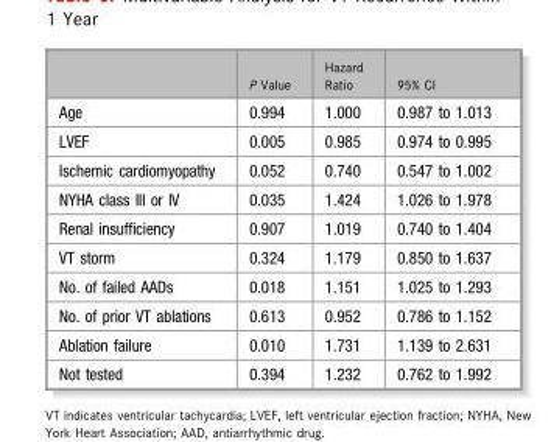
<table><thead><tr><td></td><td>P Value</td><td>Hazard Ratio</td><td>95% CI</td></tr></thead><tbody><tr><td>Age</td><td>0.994</td><td>1.000</td><td>0.987 to 1.013</td></tr><tr><td>LVEF</td><td>0.005</td><td>0.985</td><td>0.974 to 0.995</td></tr><tr><td>Ischemic cardiomyopathy</td><td>0.052</td><td>0.740</td><td>0.547 to 1.002</td></tr><tr><td>NYHA class III or IV</td><td>0.035</td><td>1.424</td><td>1.026 to 1.978</td></tr><tr><td>Renal insufficiency</td><td>0.907</td><td>1.019</td><td>0.740 to 1.404</td></tr><tr><td>VT storm</td><td>0.324</td><td>1.179</td><td>0.850 to 1.637</td></tr><tr><td>No. of failed AADs</td><td>0.018</td><td>1.151</td><td>1.025 to 1.293</td></tr><tr><td>No. of prior VT ablations</td><td>0.613</td><td>0.952</td><td>0.786 to 1.152</td></tr><tr><td>Ablation failure</td><td>0.010</td><td>1.731</td><td>1.139 to 2.631</td></tr><tr><td>Not tested</td><td>0.394</td><td>1.232</td><td>0.762 to 1.992</td></tr></tbody></table>